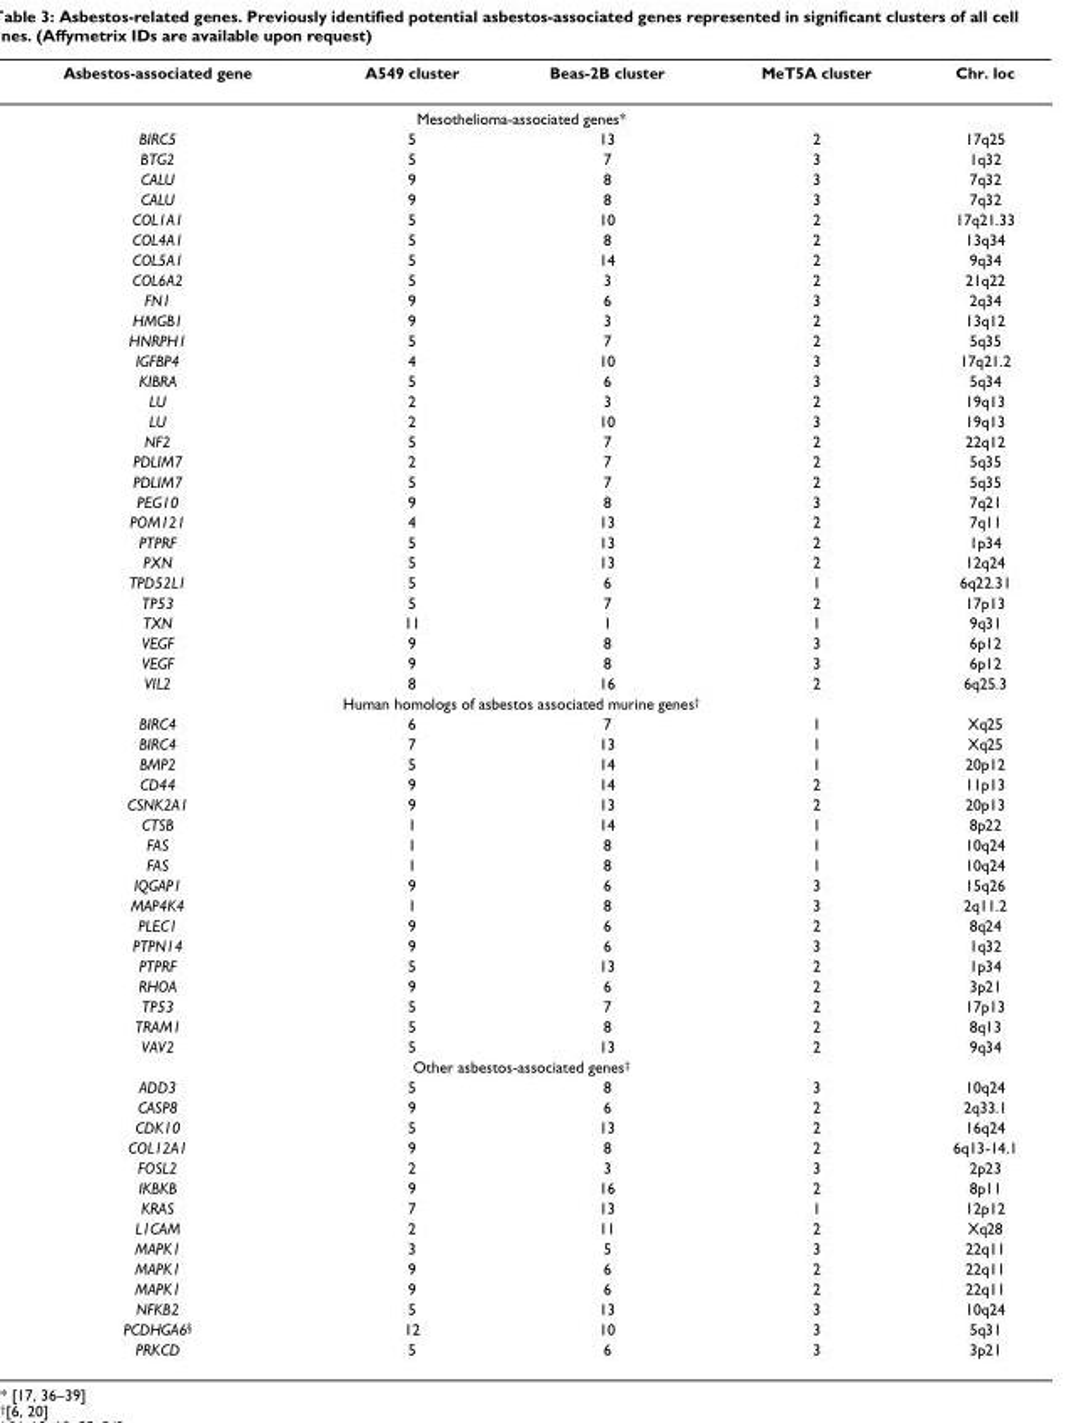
<table><thead><tr><td>Asbestos-associated gene</td><td>A549 cluster</td><td>Beas-2B cluster</td><td>MeT5A cluster</td><td>Chr. loc</td></tr></thead><tbody><tr><td colspan="5">Mesothelioma-associated genes*</td></tr><tr><td>BIRC5</td><td>5</td><td>13</td><td>2</td><td>17q25</td></tr><tr><td>BTG2</td><td>5</td><td>7</td><td>3</td><td>1q32</td></tr><tr><td>CALU</td><td>9</td><td>8</td><td>3</td><td>7q32</td></tr><tr><td>CALU</td><td>9</td><td>8</td><td>3</td><td>7q32</td></tr><tr><td>COL1A1</td><td>5</td><td>10</td><td>2</td><td>17q21.33</td></tr><tr><td>COL4A1</td><td>5</td><td>8</td><td>2</td><td>13q34</td></tr><tr><td>COL5A1</td><td>5</td><td>14</td><td>2</td><td>9q34</td></tr><tr><td>COL6A2</td><td>5</td><td>3</td><td>2</td><td>21q22</td></tr><tr><td>FN1</td><td>9</td><td>6</td><td>3</td><td>2q34</td></tr><tr><td>HMGB1</td><td>9</td><td>3</td><td>2</td><td>13q12</td></tr><tr><td>HNRPH1</td><td>5</td><td>7</td><td>2</td><td>5q35</td></tr><tr><td>IGFBP4</td><td>4</td><td>10</td><td>3</td><td>17q21.2</td></tr><tr><td>KIBRA</td><td>5</td><td>6</td><td>3</td><td>5q34</td></tr><tr><td>LU</td><td>2</td><td>3</td><td>2</td><td>19q13</td></tr><tr><td>LU</td><td>2</td><td>10</td><td>3</td><td>19q13</td></tr><tr><td>NF2</td><td>5</td><td>7</td><td>2</td><td>22q12</td></tr><tr><td>PDLIM7</td><td>2</td><td>7</td><td>2</td><td>5q35</td></tr><tr><td>PDLIM7</td><td>5</td><td>7</td><td>2</td><td>5q35</td></tr><tr><td>PEG10</td><td>9</td><td>8</td><td>3</td><td>7q21</td></tr><tr><td>POM121</td><td>4</td><td>13</td><td>2</td><td>7q11</td></tr><tr><td>PTPRF</td><td>5</td><td>13</td><td>2</td><td>1p34</td></tr><tr><td>PXN</td><td>5</td><td>13</td><td>2</td><td>12q24</td></tr><tr><td>TPD52L1</td><td>5</td><td>6</td><td>1</td><td>6q22.31</td></tr><tr><td>TP53</td><td>5</td><td>7</td><td>2</td><td>17p13</td></tr><tr><td>TXN</td><td>11</td><td>1</td><td>1</td><td>9q31</td></tr><tr><td>VEGF</td><td>9</td><td>8</td><td>3</td><td>6p12</td></tr><tr><td>VEGF</td><td>9</td><td>8</td><td>3</td><td>6p12</td></tr><tr><td>VIL2</td><td>8</td><td>16</td><td>2</td><td>6q25.3</td></tr><tr><td colspan="5">Human homologs of asbestos associated murine genes†</td></tr><tr><td>BIRC4</td><td>6</td><td>7</td><td>1</td><td>Xq25</td></tr><tr><td>BIRC4</td><td>7</td><td>13</td><td>1</td><td>Xq25</td></tr><tr><td>BMP2</td><td>5</td><td>14</td><td>1</td><td>20p12</td></tr><tr><td>CD44</td><td>9</td><td>14</td><td>2</td><td>11p13</td></tr><tr><td>CSNK2A1</td><td>9</td><td>13</td><td>2</td><td>20p13</td></tr><tr><td>CTSB</td><td>1</td><td>14</td><td>1</td><td>8p22</td></tr><tr><td>FAS</td><td>1</td><td>8</td><td>1</td><td>10q24</td></tr><tr><td>FAS</td><td>1</td><td>8</td><td>1</td><td>10q24</td></tr><tr><td>IQGAP1</td><td>9</td><td>6</td><td>3</td><td>15q26</td></tr><tr><td>MAP4K4</td><td>1</td><td>8</td><td>3</td><td>2q11.2</td></tr><tr><td>PLEC1</td><td>9</td><td>6</td><td>2</td><td>8q24</td></tr><tr><td>PTPN14</td><td>9</td><td>6</td><td>3</td><td>1q32</td></tr><tr><td>PTPRF</td><td>5</td><td>13</td><td>2</td><td>1p34</td></tr><tr><td>RHOA</td><td>9</td><td>6</td><td>2</td><td>3p21</td></tr><tr><td>TP53</td><td>5</td><td>7</td><td>2</td><td>17p13</td></tr><tr><td>TRAM1</td><td>5</td><td>8</td><td>2</td><td>8q13</td></tr><tr><td>VAV2</td><td>5</td><td>13</td><td>2</td><td>9q34</td></tr><tr><td colspan="5">Other asbestos-associated genes‡</td></tr><tr><td>ADD3</td><td>5</td><td>8</td><td>3</td><td>10q24</td></tr><tr><td>CASP8</td><td>9</td><td>6</td><td>2</td><td>2q33.1</td></tr><tr><td>CDK10</td><td>5</td><td>13</td><td>2</td><td>16q24</td></tr><tr><td>COL12A1</td><td>9</td><td>8</td><td>2</td><td>6q13-14.1</td></tr><tr><td>FOSL2</td><td>2</td><td>3</td><td>3</td><td>2p23</td></tr><tr><td>IKBKB</td><td>9</td><td>16</td><td>2</td><td>8p11</td></tr><tr><td>KRAS</td><td>7</td><td>13</td><td>1</td><td>12p12</td></tr><tr><td>L1CAM</td><td>2</td><td>11</td><td>2</td><td>Xq28</td></tr><tr><td>MAPK1</td><td>3</td><td>5</td><td>3</td><td>22q11</td></tr><tr><td>MAPK1</td><td>9</td><td>6</td><td>2</td><td>22q11</td></tr><tr><td>MAPK1</td><td>9</td><td>6</td><td>2</td><td>22q11</td></tr><tr><td>NFKB2</td><td>5</td><td>13</td><td>3</td><td>10q24</td></tr><tr><td>PCDHGA6§</td><td>12</td><td>10</td><td>3</td><td>5q31</td></tr><tr><td>PRKCD</td><td>5</td><td>6</td><td>3</td><td>3p21</td></tr></tbody></table>